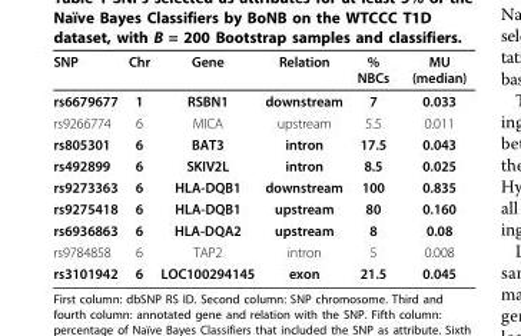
<table><thead><tr><td>SNP</td><td>Chr</td><td>Gene</td><td>Relation</td><td>% NBCs</td><td>MU (median)</td></tr></thead><tbody><tr><td>rs6679677</td><td>1</td><td>RSBN1</td><td>downstream</td><td>7</td><td>0.033</td></tr><tr><td>rs9266774</td><td>6</td><td>MICA</td><td>upstream</td><td>5.5</td><td>0.011</td></tr><tr><td>rs805301</td><td>6</td><td>BAT3</td><td>intron</td><td>17.5</td><td>0.043</td></tr><tr><td>rs492899</td><td>6</td><td>SKIV2L</td><td>intron</td><td>8.5</td><td>0.025</td></tr><tr><td>rs9273363</td><td>6</td><td>HLA-DQB1</td><td>downstream</td><td>100</td><td>0.835</td></tr><tr><td>rs9275418</td><td>6</td><td>HLA-DQB1</td><td>upstream</td><td>80</td><td>0.160</td></tr><tr><td>rs6936863</td><td>6</td><td>HLA-DQA2</td><td>upstream</td><td>8</td><td>0.08</td></tr><tr><td>rs9784858</td><td>6</td><td>TAP2</td><td>intron</td><td>5</td><td>0.008</td></tr><tr><td>rs3101942</td><td>6</td><td>LOC100294145</td><td>exon</td><td>21.5</td><td>0.045</td></tr></tbody></table>